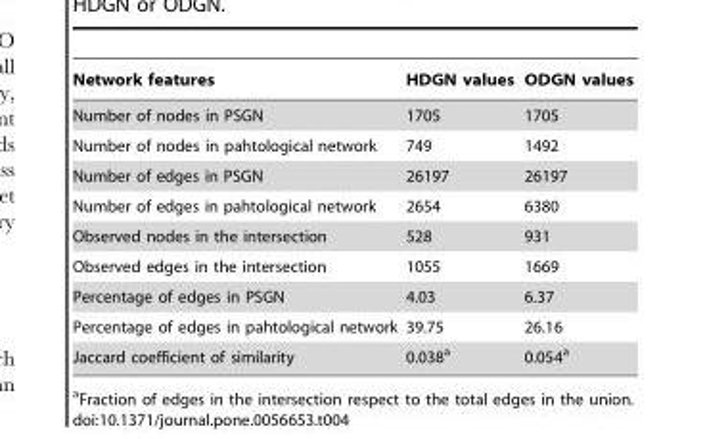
<table><thead><tr><td>Network features</td><td>HDGN values</td><td>ODGN values</td></tr></thead><tbody><tr><td>Number of nodes in PSGN</td><td>1705</td><td>1705</td></tr><tr><td>Number of nodes in pahtological network</td><td>749</td><td>1492</td></tr><tr><td>Number of edges in PSGN</td><td>26197</td><td>26197</td></tr><tr><td>Number of edges in pahtological network</td><td>2654</td><td>6380</td></tr><tr><td>Observed nodes in the intersection</td><td>528</td><td>931</td></tr><tr><td>Observed edges in the intersection</td><td>1055</td><td>1669</td></tr><tr><td>Percentage of edges in PSGN</td><td>4.03</td><td>6.37</td></tr><tr><td>Percentage of edges in pahtological network</td><td>39.75</td><td>26.16</td></tr><tr><td>Jaccard coefficient of similarity</td><td>0.038<sup>a</sup></td><td>0.054<sup>a</sup></td></tr></tbody></table>